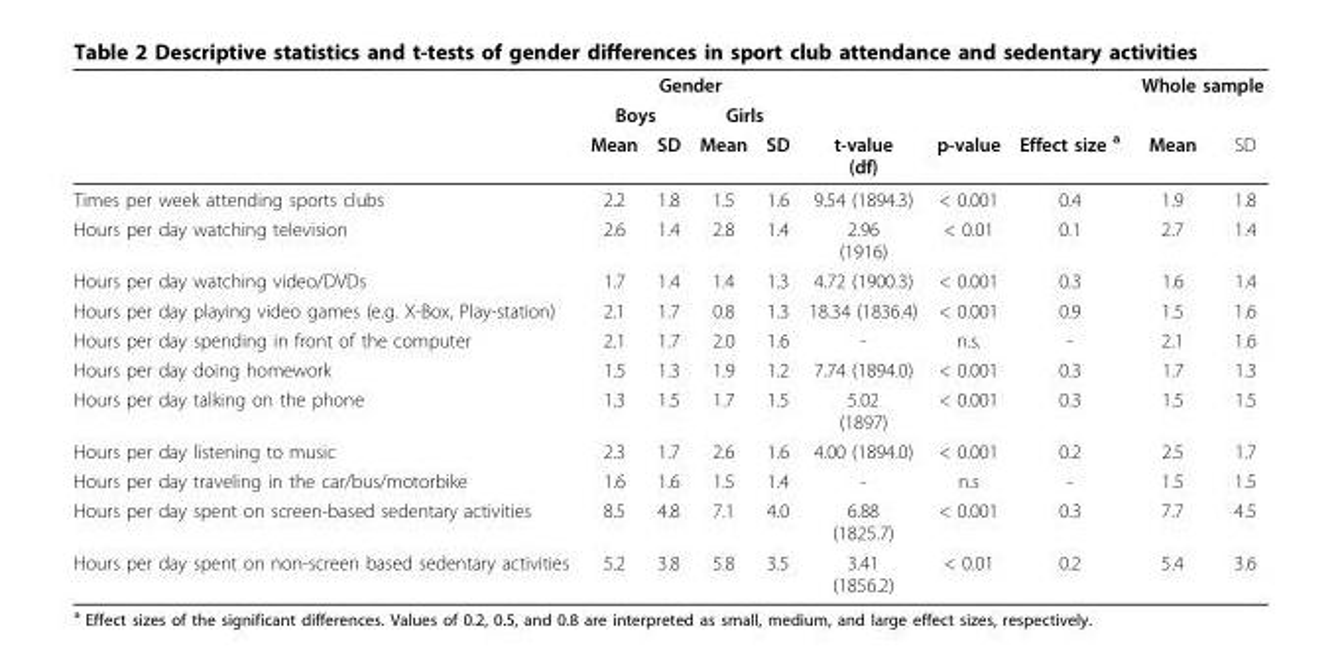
<table><thead><tr><td rowspan="3"></td><td colspan="4">Gender</td><td rowspan="3">t-value (df)</td><td rowspan="3">p-value</td><td rowspan="3">Effect size <sup>a</sup></td><td colspan="2">Whole sample</td></tr><tr><td colspan="2">Boys</td><td colspan="2">Girls</td><td rowspan="2">Mean</td><td rowspan="2">SD</td></tr><tr><td>Mean</td><td>SD</td><td>Mean</td><td>SD</td></tr></thead><tbody><tr><td>Times per week attending sports clubs</td><td>2.2</td><td>1.8</td><td>1.5</td><td>1.6</td><td>9.54 (1894.3)</td><td>&lt; 0.001</td><td>0.4</td><td>1.9</td><td>1.8</td></tr><tr><td>Hours per day watching television</td><td>2.6</td><td>1.4</td><td>2.8</td><td>1.4</td><td>2.96 (1916)</td><td>&lt; 0.01</td><td>0.1</td><td>2.7</td><td>1.4</td></tr><tr><td>Hours per day watching video/DVDs</td><td>1.7</td><td>1.4</td><td>1.4</td><td>1.3</td><td>4.72 (1900.3)</td><td>&lt; 0.001</td><td>0.3</td><td>1.6</td><td>1.4</td></tr><tr><td>Hours per day playing video games (e.g. X-Box, Play-station)</td><td>2.1</td><td>1.7</td><td>0.8</td><td>1.3</td><td>18.34 (1836.4)</td><td>&lt; 0.001</td><td>0.9</td><td>1.5</td><td>1.6</td></tr><tr><td>Hours per day spending in front of the computer</td><td>2.1</td><td>1.7</td><td>2.0</td><td>1.6</td><td>-</td><td>n.s.</td><td>-</td><td>2.1</td><td>1.6</td></tr><tr><td>Hours per day doing homework</td><td>1.5</td><td>1.3</td><td>1.9</td><td>1.2</td><td>7.74 (1894.0)</td><td>&lt; 0.001</td><td>0.3</td><td>1.7</td><td>1.3</td></tr><tr><td>Hours per day talking on the phone</td><td>1.3</td><td>1.5</td><td>1.7</td><td>1.5</td><td>5.02 (1897)</td><td>&lt; 0.001</td><td>0.3</td><td>1.5</td><td>1.5</td></tr><tr><td>Hours per day listening to music</td><td>2.3</td><td>1.7</td><td>2.6</td><td>1.6</td><td>4.00 (1894.0)</td><td>&lt; 0.001</td><td>0.2</td><td>2.5</td><td>1.7</td></tr><tr><td>Hours per day traveling in the car/bus/motorbike</td><td>1.6</td><td>1.6</td><td>1.5</td><td>1.4</td><td>-</td><td>n.s</td><td>-</td><td>1.5</td><td>1.5</td></tr><tr><td>Hours per day spent on screen-based sedentary activities</td><td>8.5</td><td>4.8</td><td>7.1</td><td>4.0</td><td>6.88 (1825.7)</td><td>&lt; 0.001</td><td>0.3</td><td>7.7</td><td>4.5</td></tr><tr><td>Hours per day spent on non-screen based sedentary activities</td><td>5.2</td><td>3.8</td><td>5.8</td><td>3.5</td><td>3.41 (1856.2)</td><td>&lt; 0.01</td><td>0.2</td><td>5.4</td><td>3.6</td></tr></tbody></table>